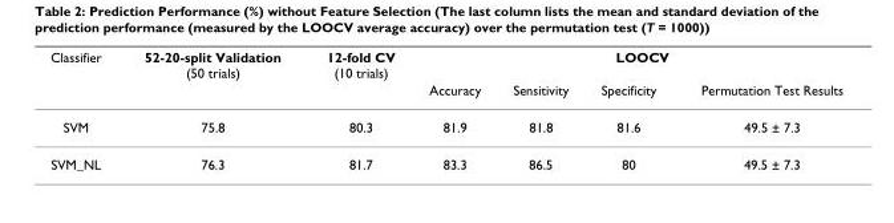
<table><thead><tr><td rowspan="2">Classifier</td><td rowspan="2">52-20-split Validation (50 trials)</td><td rowspan="2">12-fold CV (10 trials)</td><td colspan="4">LOOCV</td></tr><tr><td>Accuracy</td><td>Sensitivity</td><td>Specificity</td><td>Permutation Test Results</td></tr></thead><tbody><tr><td>SVM</td><td>75.8</td><td>80.3</td><td>81.9</td><td>81.8</td><td>81.6</td><td>49.5 ± 7.3</td></tr><tr><td>SVM_NL</td><td>76.3</td><td>81.7</td><td>83.3</td><td>86.5</td><td>80</td><td>49.5 ± 7.3</td></tr></tbody></table>